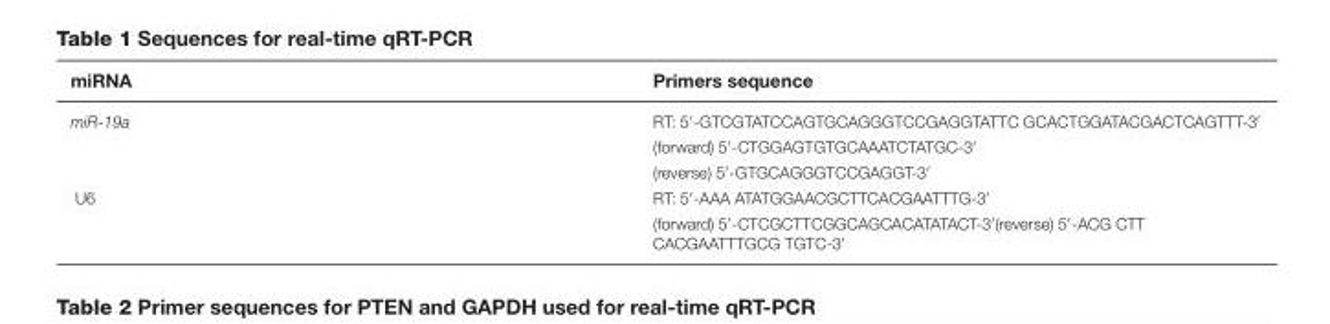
<table><thead><tr><td>miRNA</td><td>Primers sequence</td></tr></thead><tbody><tr><td rowspan="3">miR-19a</td><td>RT: 5′-GTCGTATCCAGTGCAGGGTCCGAGGTATTC GCACTGGATACGACTCAGTTT-3′</td></tr><tr><td>(forward) 5′-CTGGAGTGTGCAAATCTATGC-3′</td></tr><tr><td>(reverse) 5′-GTGCAGGGTCCGAGGT-3′</td></tr><tr><td rowspan="2">U6</td><td>RT: 5′-AAA ATATGGAACGCTTCACGAATTTG-3′</td></tr><tr><td>(forward) 5′-CTCGCTTCGGCAGCACATATACT-3′(reverse) 5′-ACG CTT CACGAATTTGCG TGTC-3′</td></tr></tbody></table>